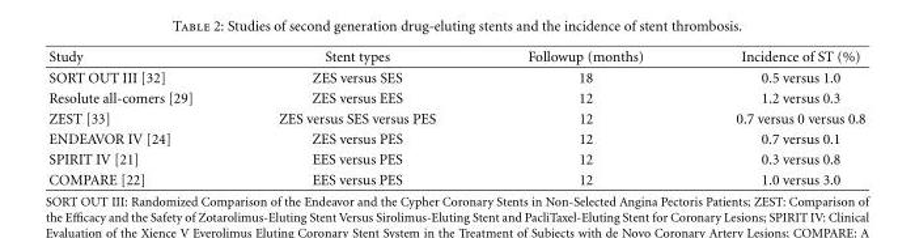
<table><thead><tr><td>Study</td><td>Stent types</td><td>Followup (months)</td><td>Incidence of ST (%)</td></tr></thead><tbody><tr><td>SORT OUT III [32]</td><td>ZES versus SES</td><td>18</td><td>0.5 versus 1.0</td></tr><tr><td>Resolute all-comers [29]</td><td>ZES versus EES</td><td>12</td><td>1.2 versus 0.3</td></tr><tr><td>ZEST [33]</td><td>ZES versus SES versus PES</td><td>12</td><td>0.7 versus 0 versus 0.8</td></tr><tr><td>ENDEAVOR IV [24]</td><td>ZES versus PES</td><td>12</td><td>0.7 versus 0.1</td></tr><tr><td>SPIRIT IV [21]</td><td>EES versus PES</td><td>12</td><td>0.3 versus 0.8</td></tr><tr><td>COMPARE [22]</td><td>EES versus PES</td><td>12</td><td>1.0 versus 3.0</td></tr></tbody></table>